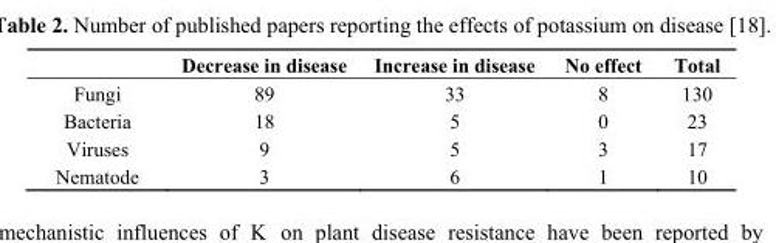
<table><thead><tr><td></td><td>Decrease in disease</td><td>Increase in disease</td><td>No effect</td><td>Total</td></tr></thead><tbody><tr><td>Fungi</td><td>89</td><td>33</td><td>8</td><td>130</td></tr><tr><td>Bacteria</td><td>18</td><td>5</td><td>0</td><td>23</td></tr><tr><td>Viruses</td><td>9</td><td>5</td><td>3</td><td>17</td></tr><tr><td>Nematode</td><td>3</td><td>6</td><td>1</td><td>10</td></tr></tbody></table>